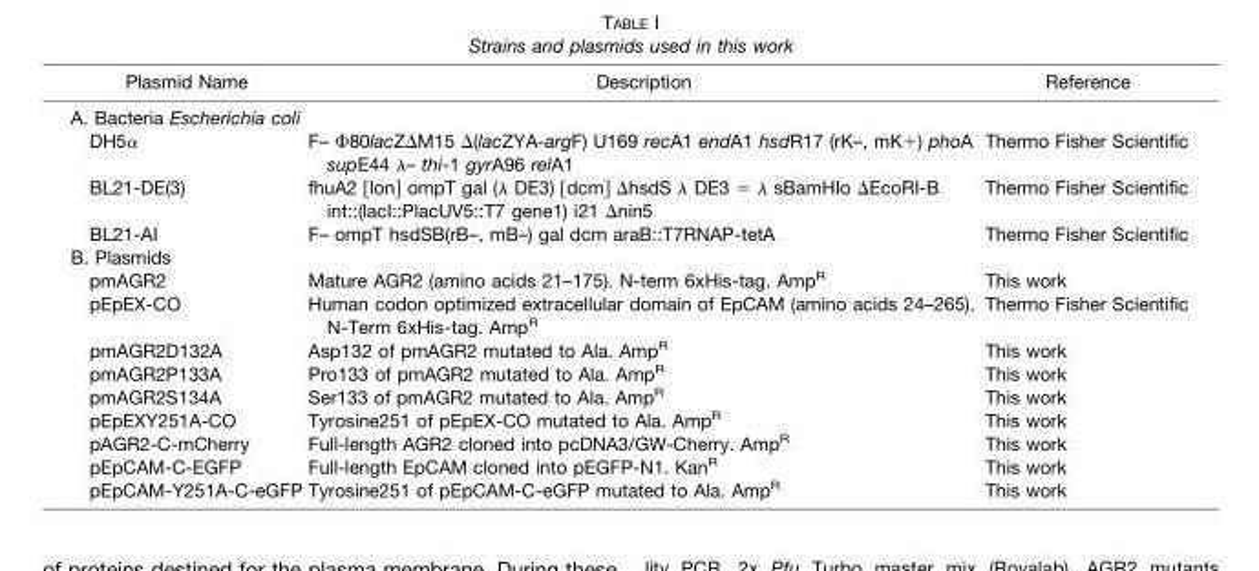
<table><thead><tr><td>Plasmid Name</td><td>Description</td><td>Reference</td></tr></thead><tbody><tr><td colspan="3">A. Bacteria Escherichia coli</td></tr><tr><td>DH5α</td><td>F– Φ80lacZΔM15 Δ(lacZYA-argF) U169 recA1 endA1 hsdR17 (rK–, mK+) phoA supE44 λ– thi-1 gyrA96 relA1</td><td>Thermo Fisher Scientific</td></tr><tr><td>BL21-DE(3)</td><td>fhuA2 [lon] ompT gal (λ DE3) [dcm] ΔhsdS λ DE3 = λ sBamHIo ΔEcoRI-B int::(lacI::PlacUV5::T7 gene1) i21 Δnin5</td><td>Thermo Fisher Scientific</td></tr><tr><td>BL21-AI</td><td>F– ompT hsdSB(rB–, mB–) gal dcm araB::T7RNAP-tetA</td><td>Thermo Fisher Scientific</td></tr><tr><td colspan="3">B. Plasmids</td></tr><tr><td>pmAGR2</td><td>Mature AGR2 (amino acids 21–175). N-term 6xHis-tag. Amp<sup>R</sup></td><td>This work</td></tr><tr><td>pEpEX-CO</td><td>Human codon optimized extracellular domain of EpCAM (amino acids 24–265). N-Term 6xHis-tag. Amp<sup>R</sup></td><td>Thermo Fisher Scientific</td></tr><tr><td>pmAGR2D132A</td><td>Asp132 of pmAGR2 mutated to Ala. Amp<sup>R</sup></td><td>This work</td></tr><tr><td>pmAGR2P133A</td><td>Pro133 of pmAGR2 mutated to Ala. Amp<sup>R</sup></td><td>This work</td></tr><tr><td>pmAGR2S134A</td><td>Ser133 of pmAGR2 mutated to Ala. Amp<sup>R</sup></td><td>This work</td></tr><tr><td>pEpEXY251A-CO</td><td>Tyrosine251 of pEpEX-CO mutated to Ala. Amp<sup>R</sup></td><td>This work</td></tr><tr><td>pAGR2-C-mCherry</td><td>Full-length AGR2 cloned into pcDNA3/GW-Cherry. Amp<sup>R</sup></td><td>This work</td></tr><tr><td>pEpCAM-C-EGFP</td><td>Full-length EpCAM cloned into pEGFP-N1. Kan<sup>R</sup></td><td>This work</td></tr><tr><td>pEpCAM-Y251A-C-eGFP</td><td>Tyrosine251 of pEpCAM-C-eGFP mutated to Ala. Amp<sup>R</sup></td><td>This work</td></tr></tbody></table>